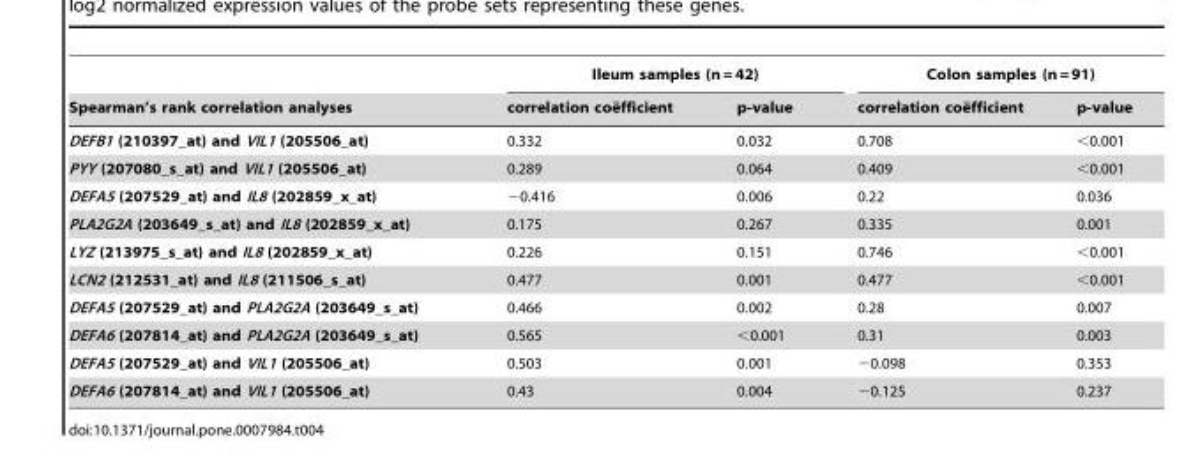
<table><thead><tr><td rowspan="2">Spearman’s rank correlation analyses</td><td colspan="2">Ileum samples (n = 42)</td><td colspan="2">Colon samples (n = 91)</td></tr><tr><td>correlation coe¨fficient</td><td>p-value</td><td>correlation coe¨fficient</td><td>p-value</td></tr></thead><tbody><tr><td>DEFB1 (210397_at) and VIL1 (205506_at)</td><td>0.332</td><td>0.032</td><td>0.708</td><td>&lt;0.001</td></tr><tr><td>PYY (207080_s_at) and VIL1 (205506_at)</td><td>0.289</td><td>0.064</td><td>0.409</td><td>&lt;0.001</td></tr><tr><td>DEFA5 (207529_at) and IL8 (202859_x_at)</td><td>−0.416</td><td>0.006</td><td>0.22</td><td>0.036</td></tr><tr><td>PLA2G2A (203649_s_at) and IL8 (202859_x_at)</td><td>0.175</td><td>0.267</td><td>0.335</td><td>0.001</td></tr><tr><td>LYZ (213975_s_at) and IL8 (202859_x_at)</td><td>0.226</td><td>0.151</td><td>0.746</td><td>&lt;0.001</td></tr><tr><td>LCN2 (212531_at) and IL8 (211506_s_at)</td><td>0.477</td><td>0.001</td><td>0.477</td><td>&lt;0.001</td></tr><tr><td>DEFA5 (207529_at) and PLA2G2A (203649_s_at)</td><td>0.466</td><td>0.002</td><td>0.28</td><td>0.007</td></tr><tr><td>DEFA6 (207814_at) and PLA2G2A (203649_s_at)</td><td>0.565</td><td>&lt;0.001</td><td>0.31</td><td>0.003</td></tr><tr><td>DEFA5 (207529_at) and VIL1 (205506_at)</td><td>0.503</td><td>0.001</td><td>−0.098</td><td>0.353</td></tr><tr><td>DEFA6 (207814_at) and VIL1 (205506_at)</td><td>0.43</td><td>0.004</td><td>−0.125</td><td>0.237</td></tr></tbody></table>